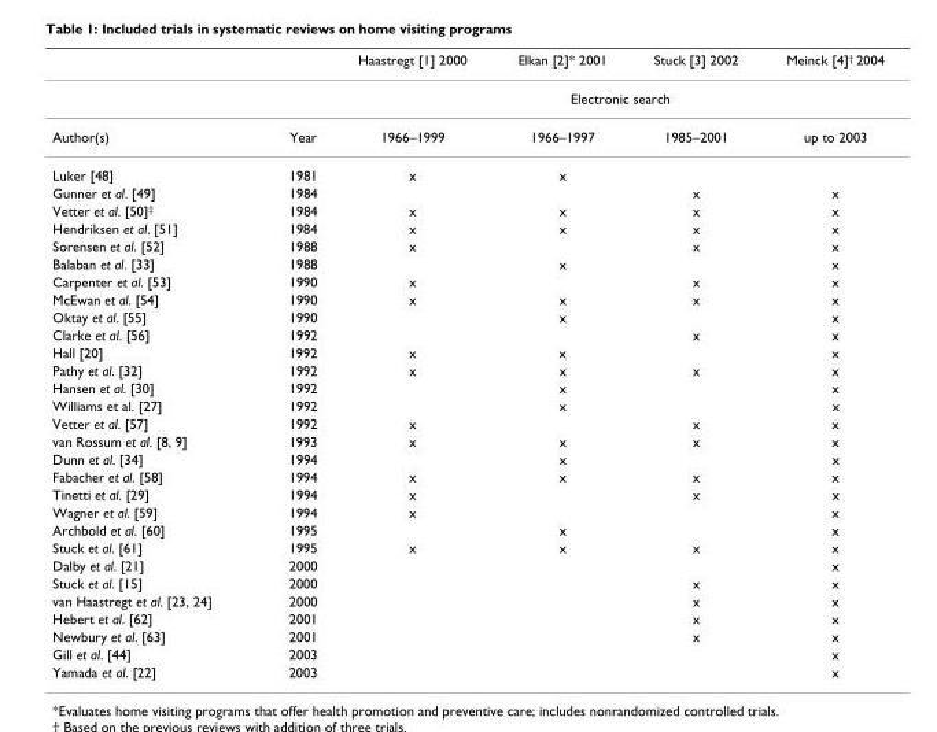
<table><thead><tr><td></td><td></td><td>Haastregt [1] 2000</td><td>Elkan [2]* 2001</td><td>Stuck [3] 2002</td><td>Meinck [4]<sup>†</sup> 2004</td></tr></thead><tbody><tr><td></td><td></td><td colspan="4">Electronic search</td></tr><tr><td>Author(s)</td><td>Year</td><td>1966–1999</td><td>1966–1997</td><td>1985–2001</td><td>up to 2003</td></tr><tr><td>Luker [48]</td><td>1981</td><td>x</td><td>x</td><td></td><td></td></tr><tr><td>Gunner et al. [49]</td><td>1984</td><td></td><td></td><td>x</td><td>x</td></tr><tr><td>Vetter et al. [50]<sup>‡</sup></td><td>1984</td><td>x</td><td>x</td><td>x</td><td>x</td></tr><tr><td>Hendriksen et al. [51]</td><td>1984</td><td>x</td><td>x</td><td>x</td><td>x</td></tr><tr><td>Sorensen et al. [52]</td><td>1988</td><td>x</td><td></td><td>x</td><td>x</td></tr><tr><td>Balaban et al. [33]</td><td>1988</td><td></td><td>x</td><td></td><td>x</td></tr><tr><td>Carpenter et al. [53]</td><td>1990</td><td>x</td><td></td><td>x</td><td>x</td></tr><tr><td>McEwan et al. [54]</td><td>1990</td><td>x</td><td>x</td><td>x</td><td>x</td></tr><tr><td>Oktay et al. [55]</td><td>1990</td><td></td><td>x</td><td></td><td>x</td></tr><tr><td>Clarke et al. [56]</td><td>1992</td><td></td><td></td><td>x</td><td>x</td></tr><tr><td>Hall [20]</td><td>1992</td><td>x</td><td>x</td><td></td><td>x</td></tr><tr><td>Pathy et al. [32]</td><td>1992</td><td>x</td><td>x</td><td>x</td><td>x</td></tr><tr><td>Hansen et al. [30]</td><td>1992</td><td></td><td>x</td><td></td><td>x</td></tr><tr><td>Williams et al. [27]</td><td>1992</td><td></td><td>x</td><td></td><td>x</td></tr><tr><td>Vetter et al. [57]</td><td>1992</td><td>x</td><td></td><td>x</td><td>x</td></tr><tr><td>van Rossum et al. [8, 9]</td><td>1993</td><td>x</td><td>x</td><td>x</td><td>x</td></tr><tr><td>Dunn et al. [34]</td><td>1994</td><td></td><td>x</td><td></td><td>x</td></tr><tr><td>Fabacher et al. [58]</td><td>1994</td><td>x</td><td>x</td><td>x</td><td>x</td></tr><tr><td>Tinetti et al. [29]</td><td>1994</td><td>x</td><td></td><td>x</td><td>x</td></tr><tr><td>Wagner et al. [59]</td><td>1994</td><td>x</td><td></td><td></td><td>x</td></tr><tr><td>Archbold et al. [60]</td><td>1995</td><td></td><td>x</td><td></td><td>x</td></tr><tr><td>Stuck et al. [61]</td><td>1995</td><td>x</td><td>x</td><td>x</td><td>x</td></tr><tr><td>Dalby et al. [21]</td><td>2000</td><td></td><td></td><td></td><td>x</td></tr><tr><td>Stuck et al. [15]</td><td>2000</td><td></td><td></td><td>x</td><td>x</td></tr><tr><td>van Haastregt et al. [23, 24]</td><td>2000</td><td></td><td></td><td>x</td><td>x</td></tr><tr><td>Hebert et al. [62]</td><td>2001</td><td></td><td></td><td>x</td><td>x</td></tr><tr><td>Newbury et al. [63]</td><td>2001</td><td></td><td></td><td>x</td><td>x</td></tr><tr><td>Gill et al. [44]</td><td>2003</td><td></td><td></td><td></td><td>x</td></tr><tr><td>Yamada et al. [22]</td><td>2003</td><td></td><td></td><td></td><td>x</td></tr></tbody></table>